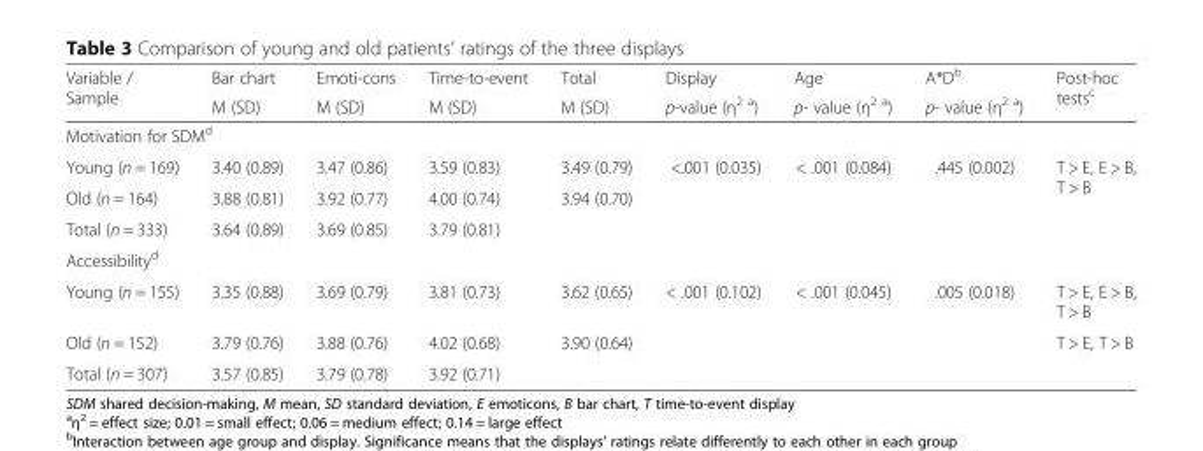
<table><thead><tr><td rowspan="2">Variable / Sample</td><td rowspan="2">Bar chart M (SD)</td><td rowspan="2">Emoti-cons M (SD)</td><td rowspan="2">Time-to-event M (SD)</td><td rowspan="2">Total M (SD)</td><td rowspan="2">Display p-value (η<sup>2 a</sup>)</td><td rowspan="2">Age p- value (η<sup>2 a</sup>)</td><td rowspan="2">A*D<sup>b</sup> p- value (η<sup>2 a</sup>)</td><td rowspan="2">Post-hoc tests<sup>c</sup></td></tr><tr></tr></thead><tbody><tr><td colspan="9">Motivation for SDM<sup>d</sup></td></tr><tr><td>Young (n = 169)</td><td>3.40 (0.89)</td><td>3.47 (0.86)</td><td>3.59 (0.83)</td><td>3.49 (0.79)</td><td rowspan="3">&lt;.001 (0.035)</td><td rowspan="3">&lt; .001 (0.084)</td><td rowspan="3">.445 (0.002)</td><td rowspan="2">T &gt; E, E &gt; B, T &gt; B</td></tr><tr><td>Old (n = 164)</td><td>3.88 (0.81)</td><td>3.92 (0.77)</td><td>4.00 (0.74)</td><td>3.94 (0.70)</td></tr><tr><td>Total (n = 333)</td><td>3.64 (0.89)</td><td>3.69 (0.85)</td><td>3.79 (0.81)</td><td></td><td></td></tr><tr><td colspan="9">Accessibility<sup>d</sup></td></tr><tr><td>Young (n = 155)</td><td>3.35 (0.88)</td><td>3.69 (0.79)</td><td>3.81 (0.73)</td><td>3.62 (0.65)</td><td rowspan="3">&lt; .001 (0.102)</td><td rowspan="3">&lt; .001 (0.045)</td><td rowspan="3">.005 (0.018)</td><td>T &gt; E, E &gt; B, T &gt; B</td></tr><tr><td>Old (n = 152)</td><td>3.79 (0.76)</td><td>3.88 (0.76)</td><td>4.02 (0.68)</td><td>3.90 (0.64)</td><td>T &gt; E, T &gt; B</td></tr><tr><td>Total (n = 307)</td><td>3.57 (0.85)</td><td>3.79 (0.78)</td><td>3.92 (0.71)</td><td></td><td></td></tr></tbody></table>